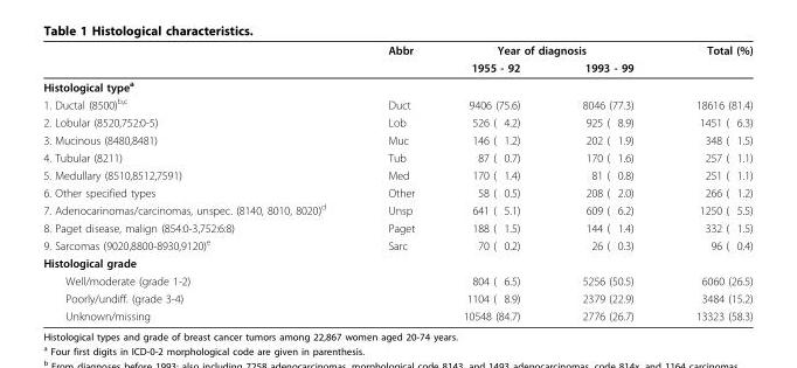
<table><thead><tr><td rowspan="2"></td><td rowspan="2">Abbr</td><td colspan="2">Year of diagnosis</td><td rowspan="2">Total (%)</td></tr><tr><td>1955 - 92</td><td>1993 - 99</td></tr></thead><tbody><tr><td colspan="5">Histological type<sup>a</sup></td></tr><tr><td>1. Ductal (8500)<sup>b,c</sup></td><td>Duct</td><td>9406 (75.6)</td><td>8046 (77.3)</td><td>18616 (81.4)</td></tr><tr><td>2. Lobular (8520,752:0-5)</td><td>Lob</td><td>526 ( 4.2)</td><td>925 ( 8.9)</td><td>1451 ( 6.3)</td></tr><tr><td>3. Mucinous (8480,8481)</td><td>Muc</td><td>146 ( 1.2)</td><td>202 ( 1.9)</td><td>348 ( 1.5)</td></tr><tr><td>4. Tubular (8211)</td><td>Tub</td><td>87 ( 0.7)</td><td>170 ( 1.6)</td><td>257 ( 1.1)</td></tr><tr><td>5. Medullary (8510,8512,7591)</td><td>Med</td><td>170 ( 1.4)</td><td>81 ( 0.8)</td><td>251 ( 1.1)</td></tr><tr><td>6. Other specified types</td><td>Other</td><td>58 ( 0.5)</td><td>208 ( 2.0)</td><td>266 ( 1.2)</td></tr><tr><td>7. Adenocarinomas/carcinomas, unspec. (8140, 8010, 8020)<sup>d</sup></td><td>Unsp</td><td>641 ( 5.1)</td><td>609 ( 6.2)</td><td>1250 ( 5.5)</td></tr><tr><td>8. Paget disease, malign (854:0-3,752:6:8)</td><td>Paget</td><td>188 ( 1.5)</td><td>144 ( 1.4)</td><td>332 ( 1.5)</td></tr><tr><td>9. Sarcomas (9020,8800-8930,9120)<sup>e</sup></td><td>Sarc</td><td>70 ( 0.2)</td><td>26 ( 0.3)</td><td>96 ( 0.4)</td></tr><tr><td colspan="5">Histological grade</td></tr><tr><td>Well/moderate (grade 1-2)</td><td></td><td>804 ( 6.5)</td><td>5256 (50.5)</td><td>6060 (26.5)</td></tr><tr><td>Poorly/undiff. (grade 3-4)</td><td></td><td>1104 ( 8.9)</td><td>2379 (22.9)</td><td>3484 (15.2)</td></tr><tr><td>Unknown/missing</td><td></td><td>10548 (84.7)</td><td>2776 (26.7)</td><td>13323 (58.3)</td></tr></tbody></table>